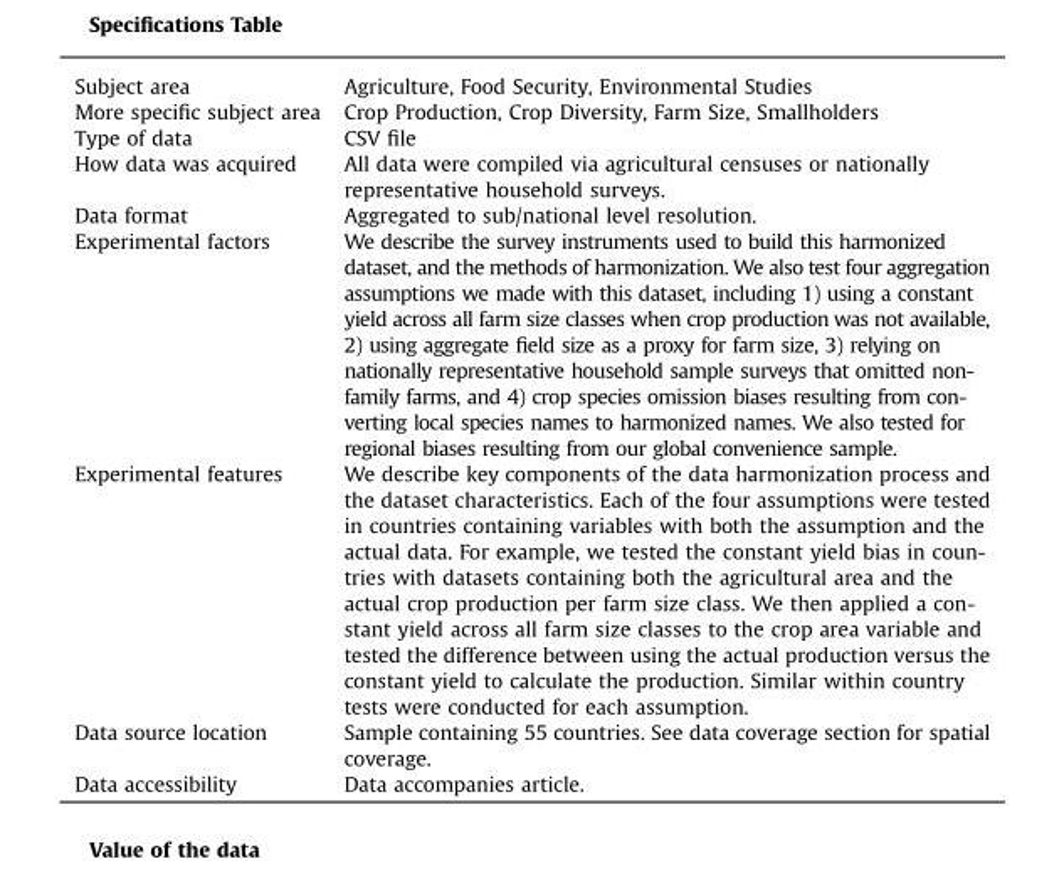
<table><tbody><tr><td>Subject area</td><td>Agriculture, Food Security, Environmental Studies</td></tr><tr><td>More specific subject area</td><td>Crop Production, Crop Diversity, Farm Size, Smallholders</td></tr><tr><td>Type of data</td><td>CSV file</td></tr><tr><td>How data was acquired</td><td>All data were compiled via agricultural censuses or nationally representative household surveys.</td></tr><tr><td>Data format</td><td>Aggregated to sub/national level resolution.</td></tr><tr><td>Experimental factors</td><td>We describe the survey instruments used to build this harmonized dataset, and the methods of harmonization. We also test four aggregation assumptions we made with this dataset, including 1) using a constant yield across all farm size classes when crop production was not available, 2) using aggregate field size as a proxy for farm size, 3) relying on nationally representative household sample surveys that omitted non- family farms, and 4) crop species omission biases resulting from con- verting local species names to harmonized names. We also tested for regional biases resulting from our global convenience sample.</td></tr><tr><td>Experimental features</td><td>We describe key components of the data harmonization process and the dataset characteristics. Each of the four assumptions were tested in countries containing variables with both the assumption and the actual data. For example, we tested the constant yield bias in coun- tries with datasets containing both the agricultural area and the actual crop production per farm size class. We then applied a con- stant yield across all farm size classes to the crop area variable and tested the difference between using the actual production versus the constant yield to calculate the production. Similar within country tests were conducted for each assumption.</td></tr><tr><td>Data source location</td><td>Sample containing 55 countries. See data coverage section for spatial coverage.</td></tr><tr><td>Data accessibility</td><td>Data accompanies article.</td></tr></tbody></table>